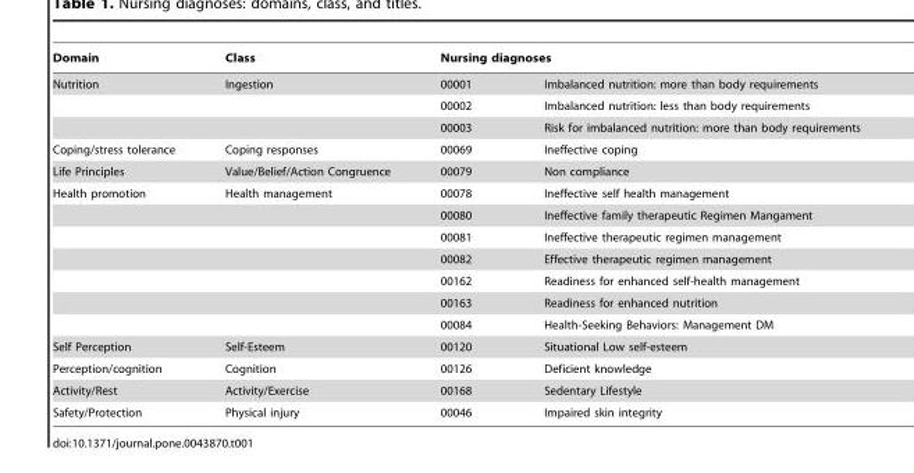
<table><thead><tr><td rowspan="2">Domain Nutrition</td><td rowspan="2">Class Ingestion</td><td colspan="2">Nursing diagnoses</td></tr><tr><td>00001</td><td>Imbalanced nutrition: more than body requirements</td></tr></thead><tbody><tr><td></td><td></td><td>00002</td><td>Imbalanced nutrition: less than body requirements</td></tr><tr><td></td><td></td><td>00003</td><td>Risk for imbalanced nutrition: more than body requirements</td></tr><tr><td>Coping/stress tolerance</td><td>Coping responses</td><td>00069</td><td>Ineffective coping</td></tr><tr><td>Life Principles</td><td>Value/Belief/Action Congruence</td><td>00079</td><td>Non compliance</td></tr><tr><td rowspan="7">Health promotion</td><td>Health management</td><td>00078</td><td>Ineffective self health management</td></tr><tr><td></td><td>00080</td><td>Ineffective family therapeutic Regimen Mangament</td></tr><tr><td></td><td>00081</td><td>Ineffective therapeutic regimen management</td></tr><tr><td></td><td>00082</td><td>Effective therapeutic regimen management</td></tr><tr><td></td><td>00162</td><td>Readiness for enhanced self-health management</td></tr><tr><td></td><td>00163</td><td>Readiness for enhanced nutrition</td></tr><tr><td></td><td>00084</td><td>Health-Seeking Behaviors: Management DM</td></tr><tr><td>Self Perception</td><td>Self-Esteem</td><td>00120</td><td>Situational Low self-esteem</td></tr><tr><td>Perception/cognition</td><td>Cognition</td><td>00126</td><td>Deficient knowledge</td></tr><tr><td>Activity/Rest</td><td>Activity/Exercise</td><td>00168</td><td>Sedentary Lifestyle</td></tr><tr><td>Safety/Protection</td><td>Physical injury</td><td>00046</td><td>Impaired skin integrity</td></tr></tbody></table>